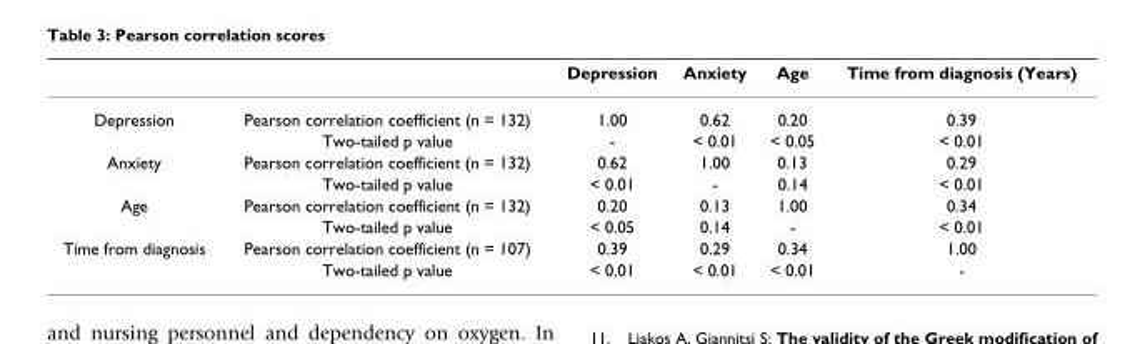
<table><thead><tr><td></td><td></td><td>Depression</td><td>Anxiety</td><td>Age</td><td>Time from diagnosis (Years)</td></tr></thead><tbody><tr><td rowspan="2">Depression</td><td>Pearson correlation coefficient (n = 132)</td><td>1.00</td><td>0.62</td><td>0.20</td><td>0.39</td></tr><tr><td>Two-tailed p value</td><td>-</td><td>&lt; 0.01</td><td>&lt; 0.05</td><td>&lt; 0.01</td></tr><tr><td rowspan="2">Anxiety</td><td>Pearson correlation coefficient (n = 132)</td><td>0.62</td><td>1.00</td><td>0.13</td><td>0.29</td></tr><tr><td>Two-tailed p value</td><td>&lt; 0.01</td><td>-</td><td>0.14</td><td>&lt; 0.01</td></tr><tr><td rowspan="2">Age</td><td>Pearson correlation coefficient (n = 132)</td><td>0.20</td><td>0.13</td><td>1.00</td><td>0.34</td></tr><tr><td>Two-tailed p value</td><td>&lt; 0.05</td><td>0.14</td><td>-</td><td>&lt; 0.01</td></tr><tr><td rowspan="2">Time from diagnosis</td><td>Pearson correlation coefficient (n = 107)</td><td>0.39</td><td>0.29</td><td>0.34</td><td>1.00</td></tr><tr><td>Two-tailed p value</td><td>&lt; 0.01</td><td>&lt; 0.01</td><td>&lt; 0.01</td><td>-</td></tr></tbody></table>